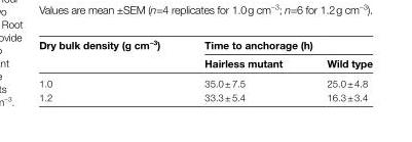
<table><thead><tr><td rowspan="2">Dry bulk density (g cm<sup>−3</sup>)</td><td colspan="2">Time to anchorage (h)</td></tr><tr><td>Hairless mutant</td><td>Wild type</td></tr></thead><tbody><tr><td>1.0</td><td>35.0 ± 7.5</td><td>25.0 ± 4.8</td></tr><tr><td>1.2</td><td>33.3 ± 5.4</td><td>16.3 ± 3.4</td></tr></tbody></table>